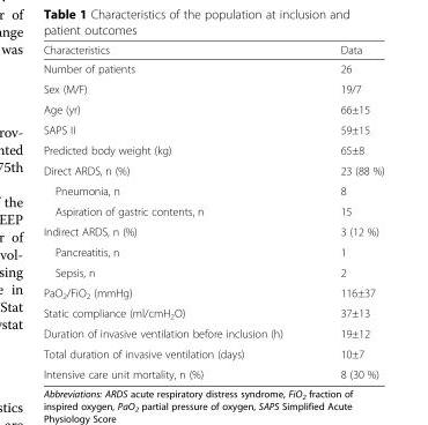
<table><thead><tr><td>Characteristics</td><td>Data</td></tr></thead><tbody><tr><td>Number of patients</td><td>26</td></tr><tr><td>Sex (M/F)</td><td>19/7</td></tr><tr><td>Age (yr)</td><td>66±15</td></tr><tr><td>SAPS II</td><td>59±15</td></tr><tr><td>Predicted body weight (kg)</td><td>65±8</td></tr><tr><td>Direct ARDS, n (%)</td><td>23 (88 %)</td></tr><tr><td>Pneumonia, n</td><td>8</td></tr><tr><td>Aspiration of gastric contents, n</td><td>15</td></tr><tr><td>Indirect ARDS, n (%)</td><td>3 (12 %)</td></tr><tr><td>Pancreatitis, n</td><td>1</td></tr><tr><td>Sepsis, n</td><td>2</td></tr><tr><td>PaO<sub>2</sub>/FiO<sub>2</sub> (mmHg)</td><td>116±37</td></tr><tr><td>Static compliance (ml/cmH<sub>2</sub>O)</td><td>37±13</td></tr><tr><td>Duration of invasive ventilation before inclusion (h)</td><td>19±12</td></tr><tr><td>Total duration of invasive ventilation (days)</td><td>10±7</td></tr><tr><td>Intensive care unit mortality, n (%)</td><td>8 (30 %)</td></tr></tbody></table>